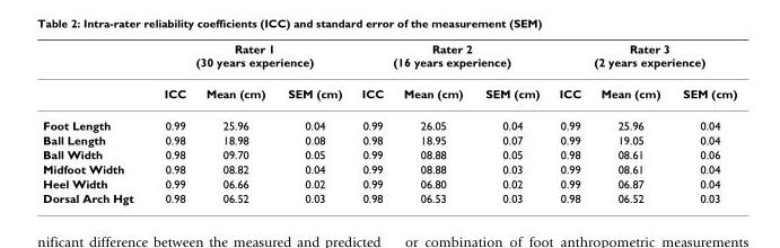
<table><thead><tr><td rowspan="2"></td><td colspan="3">Rater 1 (30 years experience)</td><td colspan="3">Rater 2 (16 years experience)</td><td colspan="3">Rater 3 (2 years experience)</td></tr><tr><td>ICC</td><td>Mean (cm)</td><td>SEM (cm)</td><td>ICC</td><td>Mean (cm)</td><td>SEM (cm)</td><td>ICC</td><td>Mean (cm)</td><td>SEM (cm)</td></tr></thead><tbody><tr><td>Foot Length</td><td>0.99</td><td>25.96</td><td>0.04</td><td>0.99</td><td>26.05</td><td>0.04</td><td>0.99</td><td>25.96</td><td>0.04</td></tr><tr><td>Ball Length</td><td>0.98</td><td>18.98</td><td>0.08</td><td>0.98</td><td>18.95</td><td>0.07</td><td>0.99</td><td>19.05</td><td>0.04</td></tr><tr><td>Ball Width</td><td>0.98</td><td>09.70</td><td>0.05</td><td>0.99</td><td>08.88</td><td>0.05</td><td>0.98</td><td>08.61</td><td>0.06</td></tr><tr><td>Midfoot Width</td><td>0.98</td><td>08.82</td><td>0.04</td><td>0.99</td><td>08.88</td><td>0.03</td><td>0.99</td><td>08.61</td><td>0.04</td></tr><tr><td>Heel Width</td><td>0.99</td><td>06.66</td><td>0.02</td><td>0.99</td><td>06.80</td><td>0.02</td><td>0.99</td><td>06.87</td><td>0.04</td></tr><tr><td>Dorsal Arch Hgt</td><td>0.98</td><td>06.52</td><td>0.03</td><td>0.98</td><td>06.53</td><td>0.03</td><td>0.98</td><td>06.52</td><td>0.03</td></tr></tbody></table>